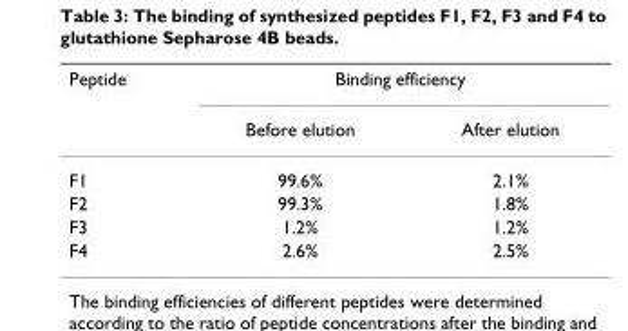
<table><thead><tr><td rowspan="2">Peptide</td><td colspan="2">Binding efficiency</td></tr><tr><td>Before elution</td><td>After elution</td></tr></thead><tbody><tr><td>F1</td><td>99.6%</td><td>2.1%</td></tr><tr><td>F2</td><td>99.3%</td><td>1.8%</td></tr><tr><td>F3</td><td>1.2%</td><td>1.2%</td></tr><tr><td>F4</td><td>2.6%</td><td>2.5%</td></tr></tbody></table>